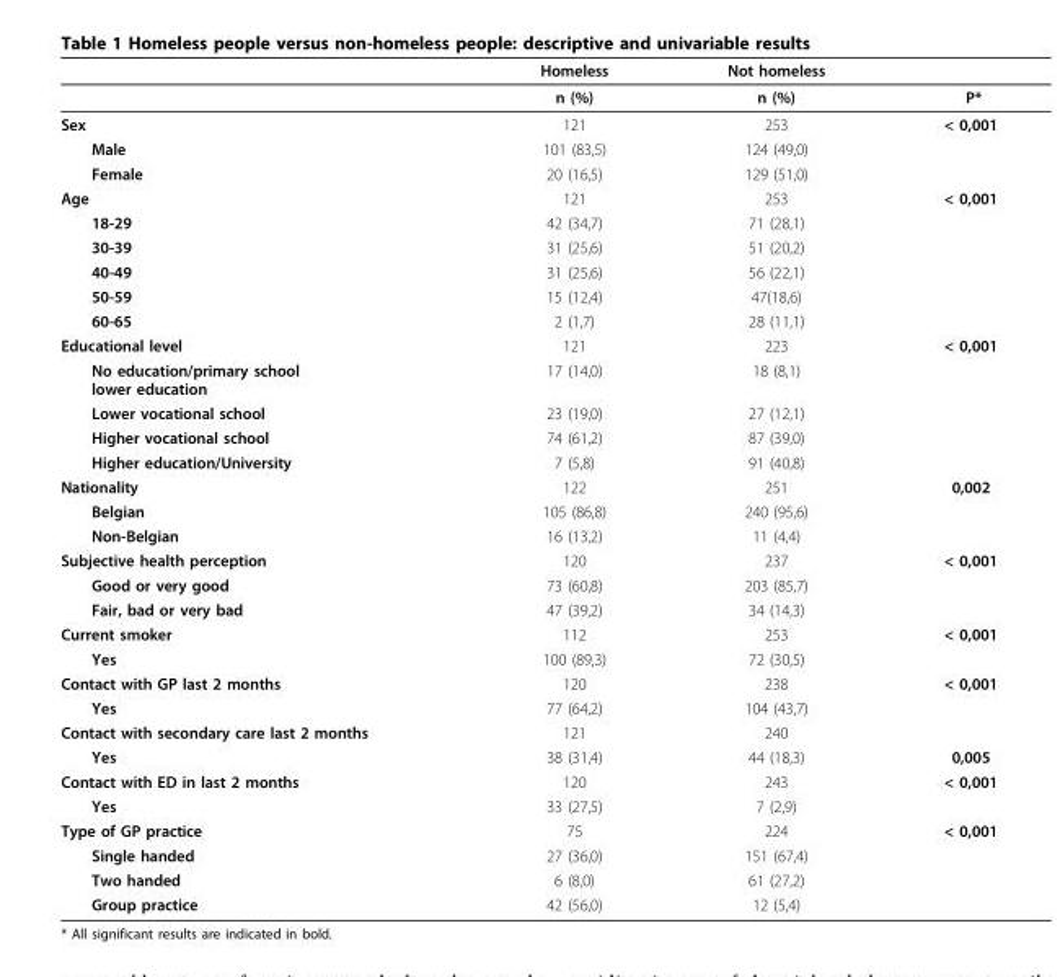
<table><thead><tr><td></td><td>Homeless</td><td>Not homeless</td><td></td></tr></thead><tbody><tr><td></td><td>n (%)</td><td>n (%)</td><td>P*</td></tr><tr><td>Sex</td><td>121</td><td>253</td><td>&lt; 0,001</td></tr><tr><td>Male</td><td>101 (83,5)</td><td>124 (49,0)</td><td></td></tr><tr><td>Female</td><td>20 (16,5)</td><td>129 (51,0)</td><td></td></tr><tr><td>Age</td><td>121</td><td>253</td><td>&lt; 0,001</td></tr><tr><td>18-29</td><td>42 (34,7)</td><td>71 (28,1)</td><td></td></tr><tr><td>30-39</td><td>31 (25,6)</td><td>51 (20,2)</td><td></td></tr><tr><td>40-49</td><td>31 (25,6)</td><td>56 (22,1)</td><td></td></tr><tr><td>50-59</td><td>15 (12,4)</td><td>47(18,6)</td><td></td></tr><tr><td>60-65</td><td>2 (1,7)</td><td>28 (11,1)</td><td></td></tr><tr><td>Educational level</td><td>121</td><td>223</td><td>&lt; 0,001</td></tr><tr><td>No education/primary school lower education</td><td>17 (14,0)</td><td>18 (8,1)</td><td></td></tr><tr><td>Lower vocational school</td><td>23 (19,0)</td><td>27 (12,1)</td><td></td></tr><tr><td>Higher vocational school</td><td>74 (61,2)</td><td>87 (39,0)</td><td></td></tr><tr><td>Higher education/University</td><td>7 (5,8)</td><td>91 (40,8)</td><td></td></tr><tr><td>Nationality</td><td>122</td><td>251</td><td>0,002</td></tr><tr><td>Belgian</td><td>105 (86,8)</td><td>240 (95,6)</td><td></td></tr><tr><td>Non-Belgian</td><td>16 (13,2)</td><td>11 (4,4)</td><td></td></tr><tr><td>Subjective health perception</td><td>120</td><td>237</td><td>&lt; 0,001</td></tr><tr><td>Good or very good</td><td>73 (60,8)</td><td>203 (85,7)</td><td></td></tr><tr><td>Fair, bad or very bad</td><td>47 (39,2)</td><td>34 (14,3)</td><td></td></tr><tr><td>Current smoker</td><td>112</td><td>253</td><td>&lt; 0,001</td></tr><tr><td>Yes</td><td>100 (89,3)</td><td>72 (30,5)</td><td></td></tr><tr><td>Contact with GP last 2 months</td><td>120</td><td>238</td><td>&lt; 0,001</td></tr><tr><td>Yes</td><td>77 (64,2)</td><td>104 (43,7)</td><td></td></tr><tr><td>Contact with secondary care last 2 months</td><td>121</td><td>240</td><td></td></tr><tr><td>Yes</td><td>38 (31,4)</td><td>44 (18,3)</td><td>0,005</td></tr><tr><td>Contact with ED in last 2 months</td><td>120</td><td>243</td><td>&lt; 0,001</td></tr><tr><td>Yes</td><td>33 (27,5)</td><td>7 (2,9)</td><td></td></tr><tr><td>Type of GP practice</td><td>75</td><td>224</td><td>&lt; 0,001</td></tr><tr><td>Single handed</td><td>27 (36,0)</td><td>151 (67,4)</td><td></td></tr><tr><td>Two handed</td><td>6 (8,0)</td><td>61 (27,2)</td><td></td></tr><tr><td>Group practice</td><td>42 (56,0)</td><td>12 (5,4)</td><td></td></tr></tbody></table>